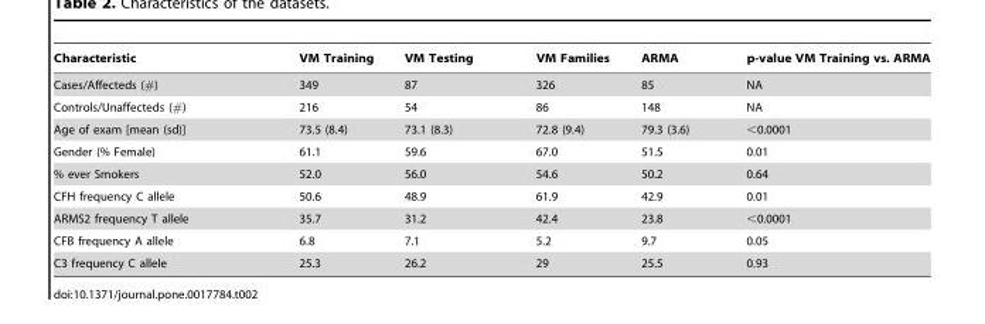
<table><thead><tr><td>Characteristic</td><td>VM Training</td><td>VM Testing</td><td>VM Families</td><td>ARMA</td><td>p-value VM Training vs. ARMA</td></tr></thead><tbody><tr><td>Cases/Affecteds (#)</td><td>349</td><td>87</td><td>326</td><td>85</td><td>NA</td></tr><tr><td>Controls/Unaffecteds (#)</td><td>216</td><td>54</td><td>86</td><td>148</td><td>NA</td></tr><tr><td>Age of exam [mean (sd)]</td><td>73.5 (8.4)</td><td>73.1 (8.3)</td><td>72.8 (9.4)</td><td>79.3 (3.6)</td><td>&lt;0.0001</td></tr><tr><td>Gender (% Female)</td><td>61.1</td><td>59.6</td><td>67.0</td><td>51.5</td><td>0.01</td></tr><tr><td>% ever Smokers</td><td>52.0</td><td>56.0</td><td>54.6</td><td>50.2</td><td>0.64</td></tr><tr><td>CFH frequency C allele</td><td>50.6</td><td>48.9</td><td>61.9</td><td>42.9</td><td>0.01</td></tr><tr><td>ARMS2 frequency T allele</td><td>35.7</td><td>31.2</td><td>42.4</td><td>23.8</td><td>&lt;0.0001</td></tr><tr><td>CFB frequency A allele</td><td>6.8</td><td>7.1</td><td>5.2</td><td>9.7</td><td>0.05</td></tr><tr><td>C3 frequency C allele</td><td>25.3</td><td>26.2</td><td>29</td><td>25.5</td><td>0.93</td></tr></tbody></table>